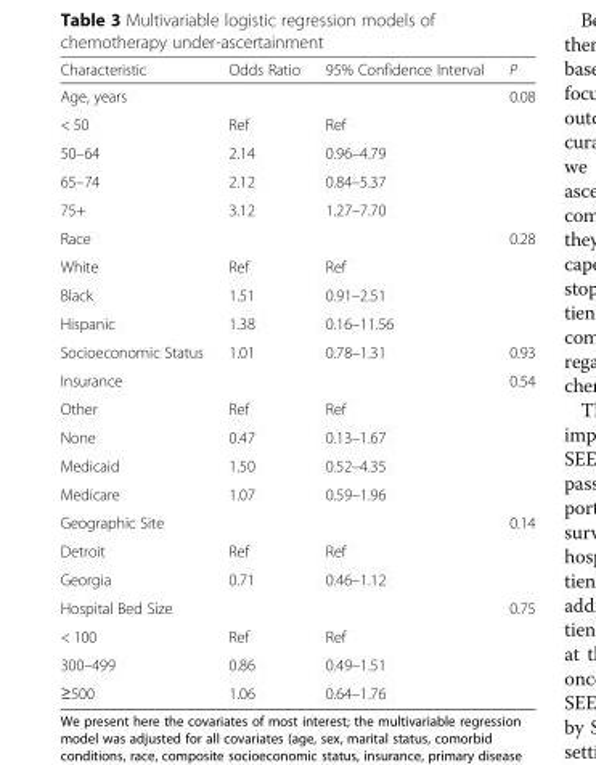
<table><thead><tr><td>Characteristic</td><td>Odds Ratio</td><td>95% Confidence Interval</td><td>P</td></tr></thead><tbody><tr><td>Age, years</td><td></td><td></td><td>0.08</td></tr><tr><td>&lt; 50</td><td>Ref</td><td>Ref</td><td></td></tr><tr><td>50–64</td><td>2.14</td><td>0.96–4.79</td><td></td></tr><tr><td>65–74</td><td>2.12</td><td>0.84–5.37</td><td></td></tr><tr><td>75+</td><td>3.12</td><td>1.27–7.70</td><td></td></tr><tr><td>Race</td><td></td><td></td><td>0.28</td></tr><tr><td>White</td><td>Ref</td><td>Ref</td><td></td></tr><tr><td>Black</td><td>1.51</td><td>0.91–2.51</td><td></td></tr><tr><td>Hispanic</td><td>1.38</td><td>0.16–11.56</td><td></td></tr><tr><td>Socioeconomic Status</td><td>1.01</td><td>0.78–1.31</td><td>0.93</td></tr><tr><td>Insurance</td><td></td><td></td><td>0.54</td></tr><tr><td>Other</td><td>Ref</td><td>Ref</td><td></td></tr><tr><td>None</td><td>0.47</td><td>0.13–1.67</td><td></td></tr><tr><td>Medicaid</td><td>1.50</td><td>0.52–4.35</td><td></td></tr><tr><td>Medicare</td><td>1.07</td><td>0.59–1.96</td><td></td></tr><tr><td>Geographic Site</td><td></td><td></td><td>0.14</td></tr><tr><td>Detroit</td><td>Ref</td><td>Ref</td><td></td></tr><tr><td>Georgia</td><td>0.71</td><td>0.46–1.12</td><td></td></tr><tr><td>Hospital Bed Size</td><td></td><td></td><td>0.75</td></tr><tr><td>&lt; 100</td><td>Ref</td><td>Ref</td><td></td></tr><tr><td>300–499</td><td>0.86</td><td>0.49–1.51</td><td></td></tr><tr><td>≥500</td><td>1.06</td><td>0.64–1.76</td><td></td></tr></tbody></table>